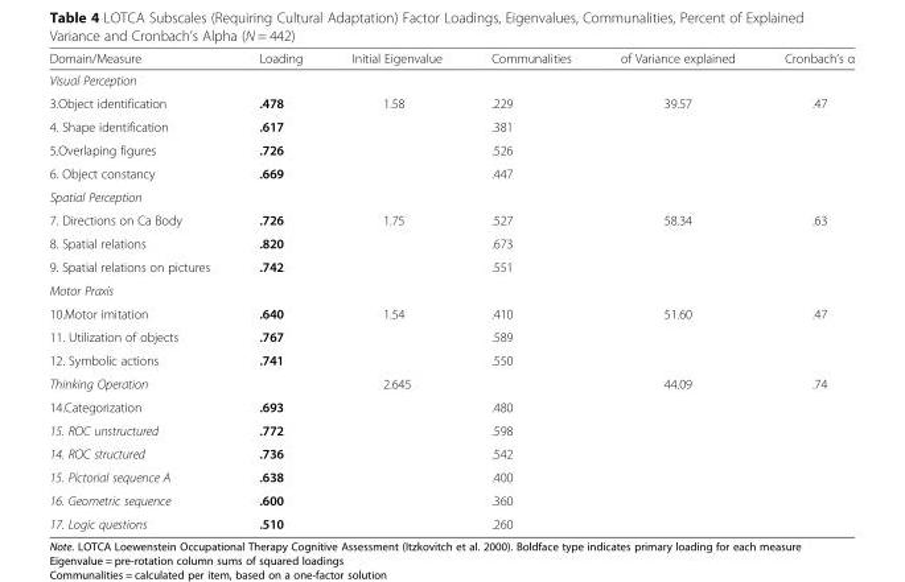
<table><thead><tr><td>Domain/Measure</td><td>Loading</td><td>Initial Eigenvalue</td><td>Communalities</td><td>of Variance explained</td><td>Cronbach’s α</td></tr></thead><tbody><tr><td colspan="6">Visual Perception</td></tr><tr><td>3.Object identification</td><td>.478</td><td>1.58</td><td>.229</td><td>39.57</td><td>.47</td></tr><tr><td>4. Shape identification</td><td>.617</td><td></td><td>.381</td><td></td><td></td></tr><tr><td>5.Overlaping figures</td><td>.726</td><td></td><td>.526</td><td></td><td></td></tr><tr><td>6. Object constancy</td><td>.669</td><td></td><td>.447</td><td></td><td></td></tr><tr><td colspan="6">Spatial Perception</td></tr><tr><td>7. Directions on Ca Body</td><td>.726</td><td>1.75</td><td>.527</td><td>58.34</td><td>.63</td></tr><tr><td>8. Spatial relations</td><td>.820</td><td></td><td>.673</td><td></td><td></td></tr><tr><td>9. Spatial relations on pictures</td><td>.742</td><td></td><td>.551</td><td></td><td></td></tr><tr><td colspan="6">Motor Praxis</td></tr><tr><td>10.Motor imitation</td><td>.640</td><td>1.54</td><td>.410</td><td>51.60</td><td>.47</td></tr><tr><td>11. Utilization of objects</td><td>.767</td><td></td><td>.589</td><td></td><td></td></tr><tr><td>12. Symbolic actions</td><td>.741</td><td></td><td>.550</td><td></td><td></td></tr><tr><td>Thinking Operation</td><td></td><td>2.645</td><td></td><td>44.09</td><td>.74</td></tr><tr><td>14.Categorization</td><td>.693</td><td></td><td>.480</td><td></td><td></td></tr><tr><td>15. ROC unstructured</td><td>.772</td><td></td><td>.598</td><td></td><td></td></tr><tr><td>14. ROC structured</td><td>.736</td><td></td><td>.542</td><td></td><td></td></tr><tr><td>15. Pictorial sequence A</td><td>.638</td><td></td><td>.400</td><td></td><td></td></tr><tr><td>16. Geometric sequence</td><td>.600</td><td></td><td>.360</td><td></td><td></td></tr><tr><td>17. Logic questions</td><td>.510</td><td></td><td>.260</td><td></td><td></td></tr></tbody></table>